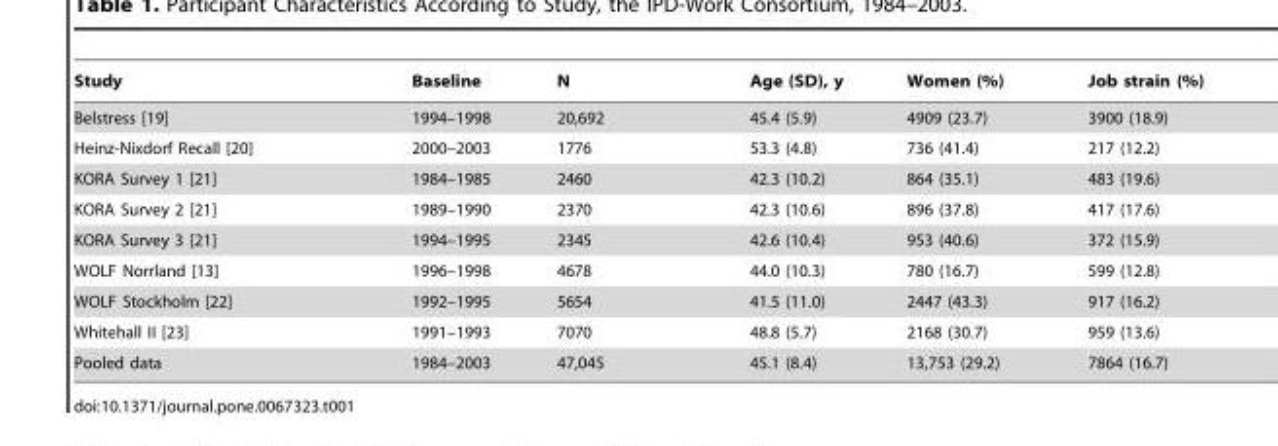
<table><thead><tr><td>Study</td><td>Baseline</td><td>N</td><td>Age (SD), y</td><td>Women (%)</td><td>Job strain (%)</td></tr></thead><tbody><tr><td>Belstress [19]</td><td>1994–1998</td><td>20,692</td><td>45.4 (5.9)</td><td>4909 (23.7)</td><td>3900 (18.9)</td></tr><tr><td>Heinz-Nixdorf Recall [20]</td><td>2000–2003</td><td>1776</td><td>53.3 (4.8)</td><td>736 (41.4)</td><td>217 (12.2)</td></tr><tr><td>KORA Survey 1 [21]</td><td>1984–1985</td><td>2460</td><td>42.3 (10.2)</td><td>864 (35.1)</td><td>483 (19.6)</td></tr><tr><td>KORA Survey 2 [21]</td><td>1989–1990</td><td>2370</td><td>42.3 (10.6)</td><td>896 (37.8)</td><td>417 (17.6)</td></tr><tr><td>KORA Survey 3 [21]</td><td>1994–1995</td><td>2345</td><td>42.6 (10.4)</td><td>953 (40.6)</td><td>372 (15.9)</td></tr><tr><td>WOLF Norrland [13]</td><td>1996–1998</td><td>4678</td><td>44.0 (10.3)</td><td>780 (16.7)</td><td>599 (12.8)</td></tr><tr><td>WOLF Stockholm [22]</td><td>1992–1995</td><td>5654</td><td>41.5 (11.0)</td><td>2447 (43.3)</td><td>917 (16.2)</td></tr><tr><td>Whitehall II [23]</td><td>1991–1993</td><td>7070</td><td>48.8 (5.7)</td><td>2168 (30.7)</td><td>959 (13.6)</td></tr><tr><td>Pooled data</td><td>1984–2003</td><td>47,045</td><td>45.1 (8.4)</td><td>13,753 (29.2)</td><td>7864 (16.7)</td></tr></tbody></table>